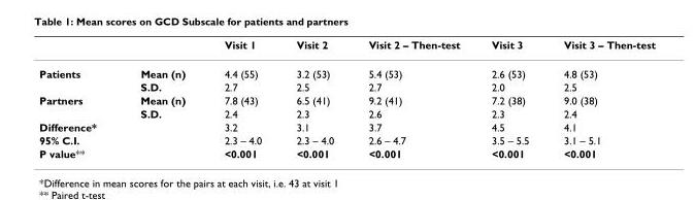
<table><thead><tr><td></td><td></td><td>Visit 1</td><td>Visit 2</td><td>Visit 2 – Then-test</td><td>Visit 3</td><td>Visit 3 – Then-test</td></tr></thead><tbody><tr><td rowspan="2">Patients</td><td>Mean (n)</td><td>4.4 (55)</td><td>3.2 (53)</td><td>5.4 (53)</td><td>2.6 (53)</td><td>4.8 (53)</td></tr><tr><td>S.D.</td><td>2.7</td><td>2.5</td><td>2.7</td><td>2.0</td><td>2.5</td></tr><tr><td rowspan="2">Partners</td><td>Mean (n)</td><td>7.8 (43)</td><td>6.5 (41)</td><td>9.2 (41)</td><td>7.2 (38)</td><td>9.0 (38)</td></tr><tr><td>S.D.</td><td>2.4</td><td>2.3</td><td>2.6</td><td>2.3</td><td>2.4</td></tr><tr><td>Difference*</td><td></td><td>3.2</td><td>3.1</td><td>3.7</td><td>4.5</td><td>4.1</td></tr><tr><td>95% C.I.</td><td></td><td>2.3 – 4.0</td><td>2.3 – 4.0</td><td>2.6 – 4.7</td><td>3.5 – 5.5</td><td>3.1 – 5.1</td></tr><tr><td>P value**</td><td></td><td>&lt;0.001</td><td>&lt;0.001</td><td>&lt;0.001</td><td>&lt;0.001</td><td>&lt;0.001</td></tr></tbody></table>